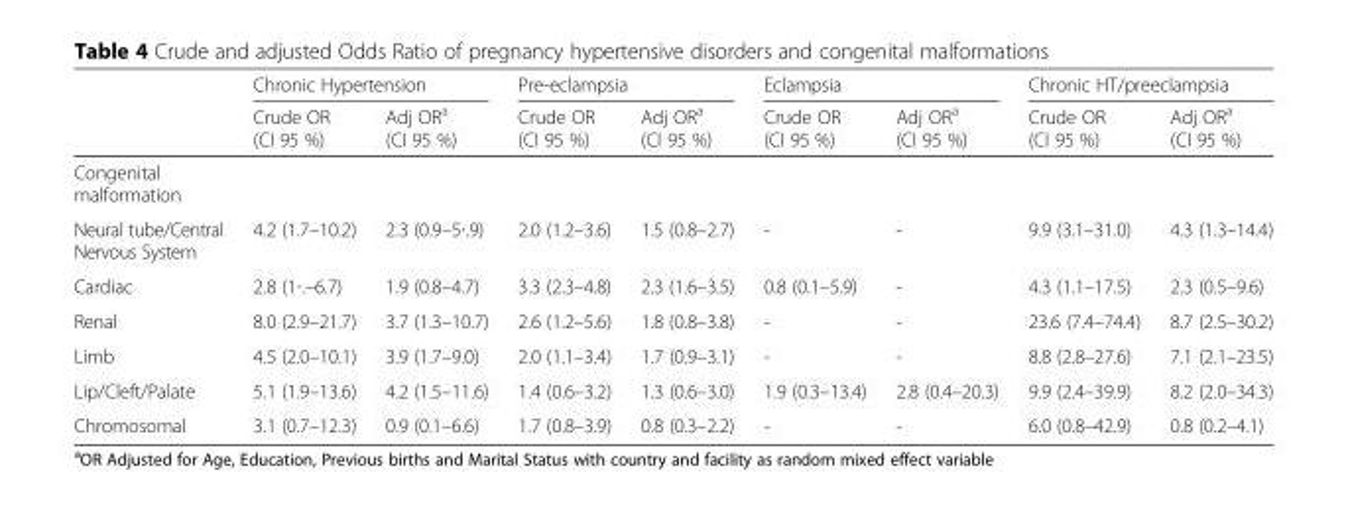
<table><thead><tr><td rowspan="2"></td><td colspan="2">Chronic Hypertension</td><td colspan="2">Pre-eclampsia</td><td colspan="2">Eclampsia</td><td colspan="2">Chronic HT/preeclampsia</td></tr><tr><td>Crude OR (CI 95 %)</td><td>Adj OR<sup>a</sup> (CI 95 %)</td><td>Crude OR (CI 95 %)</td><td>Adj OR<sup>a</sup> (CI 95 %)</td><td>Crude OR (CI 95 %)</td><td>Adj OR<sup>a</sup> (CI 95 %)</td><td>Crude OR (CI 95 %)</td><td>Adj OR<sup>a</sup> (CI 95 %)</td></tr></thead><tbody><tr><td colspan="9">Congenital malformation</td></tr><tr><td>Neural tube/Central Nervous System</td><td>4.2 (1.7–10.2)</td><td>2.3 (0.9–5∙.9)</td><td>2.0 (1.2–3.6)</td><td>1.5 (0.8–2.7)</td><td>-</td><td>-</td><td>9.9 (3.1–31.0)</td><td>4.3 (1.3–14.4)</td></tr><tr><td>Cardiac</td><td>2.8 (1∙.–6.7)</td><td>1.9 (0.8–4.7)</td><td>3.3 (2.3–4.8)</td><td>2.3 (1.6–3.5)</td><td>0.8 (0.1–5.9)</td><td>-</td><td>4.3 (1.1–17.5)</td><td>2.3 (0.5–9.6)</td></tr><tr><td>Renal</td><td>8.0 (2.9–21.7)</td><td>3.7 (1.3–10.7)</td><td>2.6 (1.2–5.6)</td><td>1.8 (0.8–3.8)</td><td>-</td><td>-</td><td>23.6 (7.4–74.4)</td><td>8.7 (2.5–30.2)</td></tr><tr><td>Limb</td><td>4.5 (2.0–10.1)</td><td>3.9 (1.7–9.0)</td><td>2.0 (1.1–3.4)</td><td>1.7 (0.9–3.1)</td><td>-</td><td>-</td><td>8.8 (2.8–27.6)</td><td>7.1 (2.1–23.5)</td></tr><tr><td>Lip/Cleft/Palate</td><td>5.1 (1.9–13.6)</td><td>4.2 (1.5–11.6)</td><td>1.4 (0.6–3.2)</td><td>1.3 (0.6–3.0)</td><td>1.9 (0.3–13.4)</td><td>2.8 (0.4–20.3)</td><td>9.9 (2.4–39.9)</td><td>8.2 (2.0–34.3)</td></tr><tr><td>Chromosomal</td><td>3.1 (0.7–12.3)</td><td>0.9 (0.1–6.6)</td><td>1.7 (0.8–3.9)</td><td>0.8 (0.3–2.2)</td><td>-</td><td>-</td><td>6.0 (0.8–42.9)</td><td>0.8 (0.2–4.1)</td></tr></tbody></table>